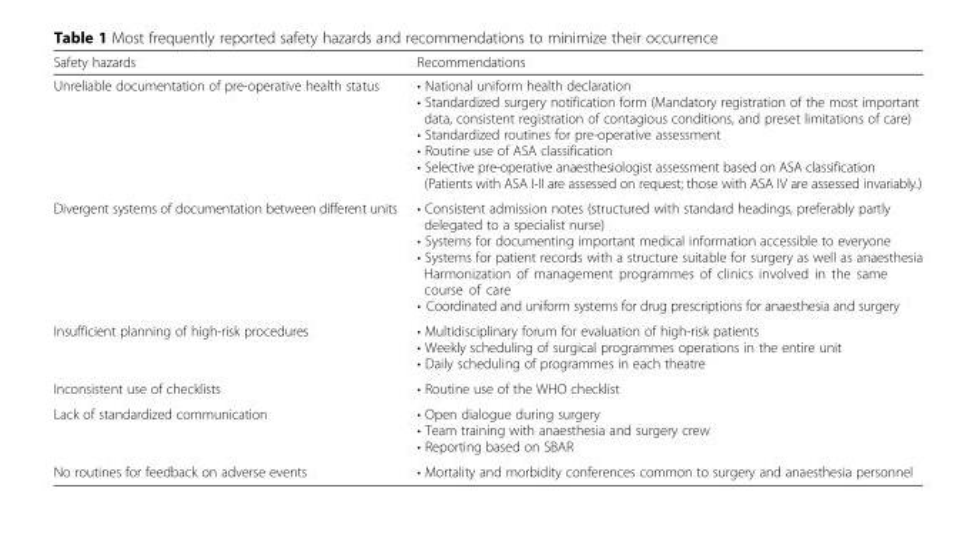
<table><thead><tr><td>Safety hazards</td><td>Recommendations</td></tr></thead><tbody><tr><td>Unreliable documentation of pre-operative health status</td><td>• National uniform health declaration • Standardized surgery notification form (Mandatory registration of the most important data, consistent registration of contagious conditions, and preset limitations of care) • Standardized routines for pre-operative assessment • Routine use of ASA classification • Selective pre-operative anaesthesiologist assessment based on ASA classification (Patients with ASA I-II are assessed on request; those with ASA IV are assessed invariably.)</td></tr><tr><td>Divergent systems of documentation between different units</td><td>• Consistent admission notes (structured with standard headings, preferably partly delegated to a specialist nurse) • Systems for documenting important medical information accessible to everyone • Systems for patient records with a structure suitable for surgery as well as anaesthesia Harmonization of management programmes of clinics involved in the same course of care • Coordinated and uniform systems for drug prescriptions for anaesthesia and surgery</td></tr><tr><td>Insufficient planning of high-risk procedures</td><td>• Multidisciplinary forum for evaluation of high-risk patients • Weekly scheduling of surgical programmes operations in the entire unit • Daily scheduling of programmes in each theatre</td></tr><tr><td>Inconsistent use of checklists</td><td>• Routine use of the WHO checklist</td></tr><tr><td>Lack of standardized communication</td><td>• Open dialogue during surgery • Team training with anaesthesia and surgery crew • Reporting based on SBAR</td></tr><tr><td>No routines for feedback on adverse events</td><td>• Mortality and morbidity conferences common to surgery and anaesthesia personnel</td></tr></tbody></table>